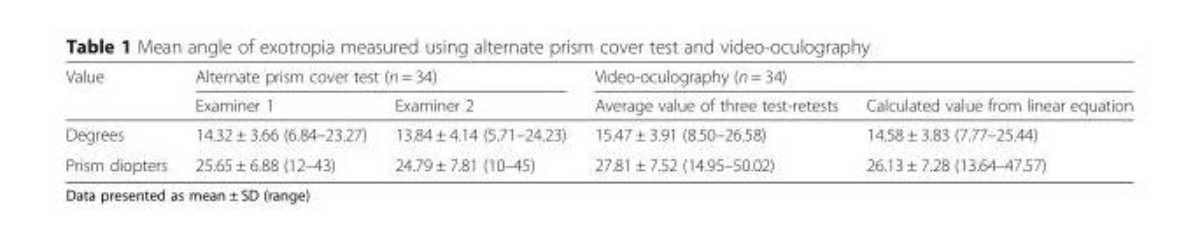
<table><thead><tr><td rowspan="2">Value</td><td colspan="2">Alternate prism cover test (n = 34)</td><td colspan="2">Video-oculography (n = 34)</td></tr><tr><td>Examiner 1</td><td>Examiner 2</td><td>Average value of three test-retests</td><td>Calculated value from linear equation</td></tr></thead><tbody><tr><td>Degrees</td><td>14.32 ± 3.66 (6.84–23.27)</td><td>13.84 ± 4.14 (5.71–24.23)</td><td>15.47 ± 3.91 (8.50–26.58)</td><td>14.58 ± 3.83 (7.77–25.44)</td></tr><tr><td>Prism diopters</td><td>25.65 ± 6.88 (12–43)</td><td>24.79 ± 7.81 (10–45)</td><td>27.81 ± 7.52 (14.95–50.02)</td><td>26.13 ± 7.28 (13.64–47.57)</td></tr></tbody></table>